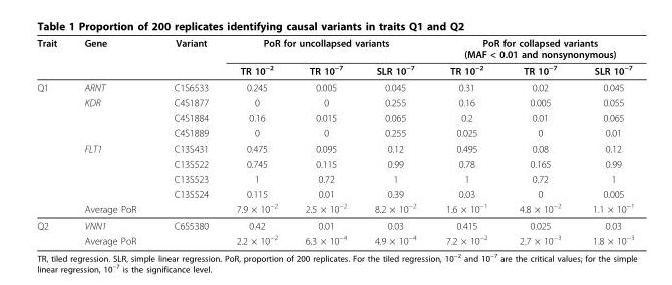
<table><thead><tr><td rowspan="2">Trait</td><td rowspan="2">Gene</td><td rowspan="2">Variant</td><td colspan="3">PoR for uncollapsed variants</td><td colspan="3">PoR for collapsed variants (MAF &lt; 0.01 and nonsynonymous)</td></tr><tr><td>TR 10<sup>−2</sup></td><td>TR 10<sup>−7</sup></td><td>SLR 10<sup>−7</sup></td><td>TR 10<sup>−2</sup></td><td>TR 10<sup>−7</sup></td><td>SLR 10<sup>−7</sup></td></tr></thead><tbody><tr><td rowspan="9">Q1</td><td>ARNT</td><td>C1S6533</td><td>0.245</td><td>0.005</td><td>0.045</td><td>0.31</td><td>0.02</td><td>0.045</td></tr><tr><td>KDR</td><td>C4S1877</td><td>0</td><td>0</td><td>0.255</td><td>0.16</td><td>0.005</td><td>0.055</td></tr><tr><td></td><td>C4S1884</td><td>0.16</td><td>0.015</td><td>0.065</td><td>0.2</td><td>0.01</td><td>0.065</td></tr><tr><td></td><td>C4S1889</td><td>0</td><td>0</td><td>0.255</td><td>0.025</td><td>0</td><td>0.01</td></tr><tr><td>FLT1</td><td>C13S431</td><td>0.475</td><td>0.095</td><td>0.12</td><td>0.495</td><td>0.08</td><td>0.12</td></tr><tr><td></td><td>C13S522</td><td>0.745</td><td>0.115</td><td>0.99</td><td>0.78</td><td>0.165</td><td>0.99</td></tr><tr><td></td><td>C13S523</td><td>1</td><td>0.72</td><td>1</td><td>1</td><td>0.72</td><td>1</td></tr><tr><td></td><td>C13S524</td><td>0.115</td><td>0.01</td><td>0.39</td><td>0.03</td><td>0</td><td>0.005</td></tr><tr><td>Average PoR</td><td></td><td>7.9 × 10<sup>−2</sup></td><td>2.5 × 10<sup>−2</sup></td><td>8.2 × 10<sup>−2</sup></td><td>1.6 × 10<sup>−1</sup></td><td>4.8 × 10<sup>−2</sup></td><td>1.1 × 10<sup>−1</sup></td></tr><tr><td rowspan="2">Q2</td><td>VNN1</td><td>C6S5380</td><td>0.42</td><td>0.01</td><td>0.03</td><td>0.415</td><td>0.025</td><td>0.03</td></tr><tr><td>Average PoR</td><td></td><td>2.2 × 10<sup>−2</sup></td><td>6.3 × 10<sup>−4</sup></td><td>4.9 × 10<sup>−4</sup></td><td>7.2 × 10<sup>−2</sup></td><td>2.7 × 10<sup>−3</sup></td><td>1.8 × 10<sup>−3</sup></td></tr></tbody></table>